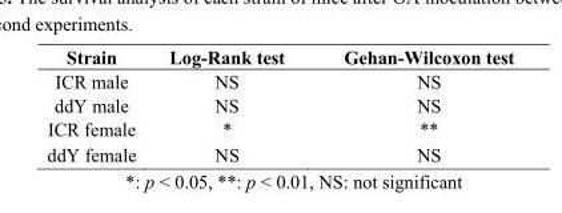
<table><thead><tr><td>Strain</td><td>Log-Rank test</td><td>Gehan-Wilcoxon test</td></tr></thead><tbody><tr><td>ICR male</td><td>NS</td><td>NS</td></tr><tr><td>ddY male</td><td>NS</td><td>NS</td></tr><tr><td>ICR female</td><td>*</td><td>**</td></tr><tr><td>ddY female</td><td>NS</td><td>NS</td></tr></tbody></table>